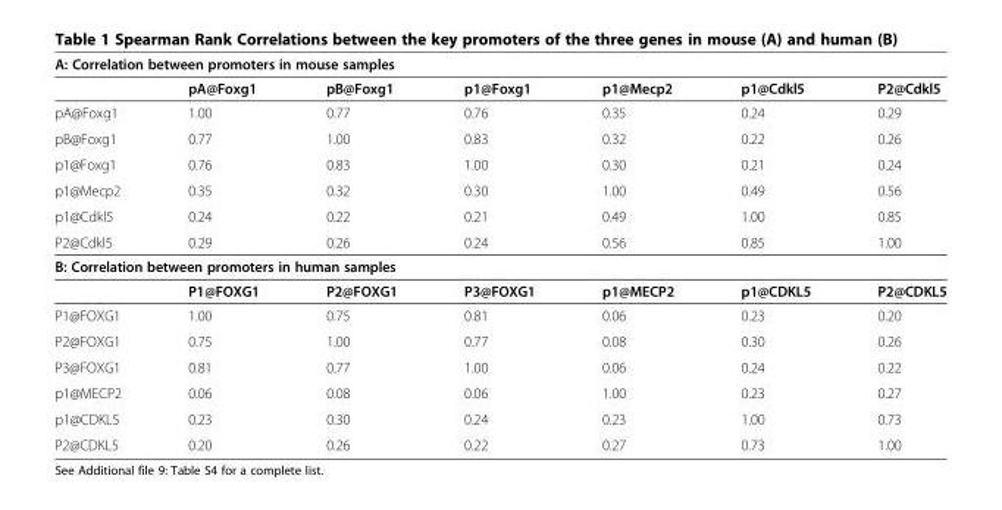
<table><thead><tr><td colspan="7">A: Correlation between promoters in mouse samples</td></tr><tr><td></td><td>pA@Foxg1</td><td>pB@Foxg1</td><td>p1@Foxg1</td><td>p1@Mecp2</td><td>p1@Cdkl5</td><td>P2@Cdkl5</td></tr></thead><tbody><tr><td>pA@Foxg1</td><td>1.00</td><td>0.77</td><td>0.76</td><td>0.35</td><td>0.24</td><td>0.29</td></tr><tr><td>pB@Foxg1</td><td>0.77</td><td>1.00</td><td>0.83</td><td>0.32</td><td>0.22</td><td>0.26</td></tr><tr><td>p1@Foxg1</td><td>0.76</td><td>0.83</td><td>1.00</td><td>0.30</td><td>0.21</td><td>0.24</td></tr><tr><td>p1@Mecp2</td><td>0.35</td><td>0.32</td><td>0.30</td><td>1.00</td><td>0.49</td><td>0.56</td></tr><tr><td>p1@Cdkl5</td><td>0.24</td><td>0.22</td><td>0.21</td><td>0.49</td><td>1.00</td><td>0.85</td></tr><tr><td>P2@Cdkl5</td><td>0.29</td><td>0.26</td><td>0.24</td><td>0.56</td><td>0.85</td><td>1.00</td></tr><tr><td colspan="7">B: Correlation between promoters in human samples</td></tr><tr><td></td><td>P1@FOXG1</td><td>P2@FOXG1</td><td>P3@FOXG1</td><td>p1@MECP2</td><td>p1@CDKL5</td><td>P2@CDKL5</td></tr><tr><td>P1@FOXG1</td><td>1.00</td><td>0.75</td><td>0.81</td><td>0.06</td><td>0.23</td><td>0.20</td></tr><tr><td>P2@FOXG1</td><td>0.75</td><td>1.00</td><td>0.77</td><td>0.08</td><td>0.30</td><td>0.26</td></tr><tr><td>P3@FOXG1</td><td>0.81</td><td>0.77</td><td>1.00</td><td>0.06</td><td>0.24</td><td>0.22</td></tr><tr><td>p1@MECP2</td><td>0.06</td><td>0.08</td><td>0.06</td><td>1.00</td><td>0.23</td><td>0.27</td></tr><tr><td>p1@CDKL5</td><td>0.23</td><td>0.30</td><td>0.24</td><td>0.23</td><td>1.00</td><td>0.73</td></tr><tr><td>P2@CDKL5</td><td>0.20</td><td>0.26</td><td>0.22</td><td>0.27</td><td>0.73</td><td>1.00</td></tr></tbody></table>